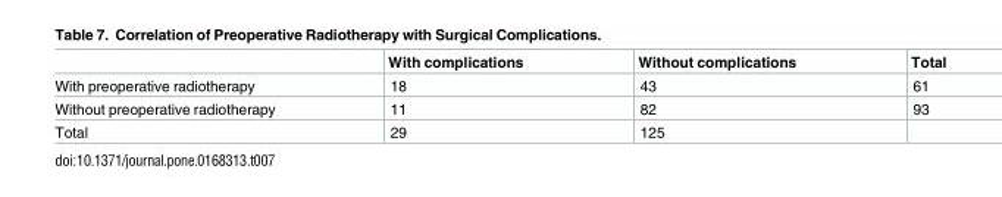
<table><thead><tr><td></td><td>With complications</td><td>Without complications</td><td>Total</td></tr></thead><tbody><tr><td>With preoperative radiotherapy</td><td>18</td><td>43</td><td>61</td></tr><tr><td>Without preoperative radiotherapy</td><td>11</td><td>82</td><td>93</td></tr><tr><td>Total</td><td>29</td><td>125</td><td></td></tr></tbody></table>